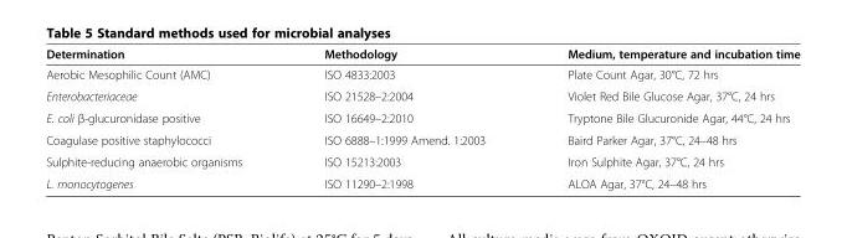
<table><thead><tr><td>Determination</td><td>Methodology</td><td>Medium, temperature and incubation time</td></tr></thead><tbody><tr><td>Aerobic Mesophilic Count (AMC)</td><td>ISO 4833:2003</td><td>Plate Count Agar, 30°C, 72 hrs</td></tr><tr><td>Enterobacteriaceae</td><td>ISO 21528–2:2004</td><td>Violet Red Bile Glucose Agar, 37°C, 24 hrs</td></tr><tr><td>E. coli β-glucuronidase positive</td><td>ISO 16649–2:2010</td><td>Tryptone Bile Glucuronide Agar, 44°C, 24 hrs</td></tr><tr><td>Coagulase positive staphylococci</td><td>ISO 6888–1:1999 Amend. 1:2003</td><td>Baird Parker Agar, 37°C, 24–48 hrs</td></tr><tr><td>Sulphite-reducing anaerobic organisms</td><td>ISO 15213:2003</td><td>Iron Sulphite Agar, 37°C, 24 hrs</td></tr><tr><td>L. monocytogenes</td><td>ISO 11290–2:1998</td><td>ALOA Agar, 37°C, 24–48 hrs</td></tr></tbody></table>